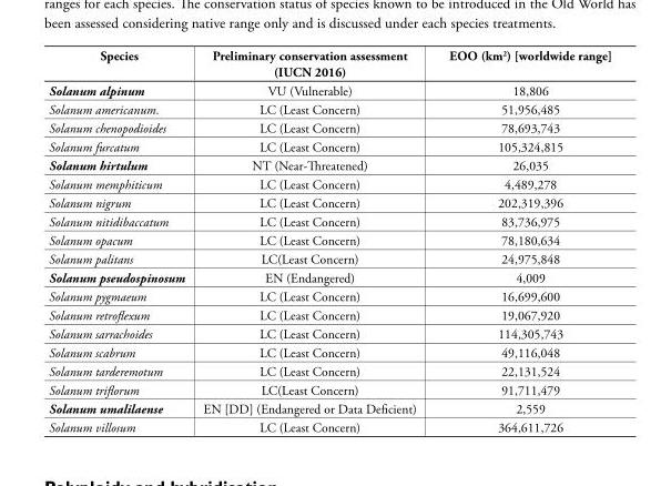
<table><tbody><tr><td>Species</td><td>Preliminary conservation assessment (IUCN 2016)</td><td>EOO (km<sup>2</sup>) [worldwide range]</td></tr><tr><td>Solanum alpinum</td><td>VU (Vulnerable)</td><td>18,806</td></tr><tr><td>Solanum americanum.</td><td>LC (Least Concern)</td><td>51,956,485</td></tr><tr><td>Solanum chenopodioides</td><td>LC (Least Concern)</td><td>78,693,743</td></tr><tr><td>Solanum furcatum</td><td>LC (Least Concern)</td><td>105,324,815</td></tr><tr><td>Solanum hirtulum</td><td>NT (Near-Threatened)</td><td>26,035</td></tr><tr><td>Solanum memphiticum</td><td>LC (Least Concern)</td><td>4,489,278</td></tr><tr><td>Solanum nigrum</td><td>LC (Least Concern)</td><td>202,319,396</td></tr><tr><td>Solanum nitidibaccatum</td><td>LC (Least Concern)</td><td>83,736,975</td></tr><tr><td>Solanum opacum</td><td>LC (Least Concern)</td><td>78,180,634</td></tr><tr><td>Solanum palitans</td><td>LC(Least Concern)</td><td>24,975,848</td></tr><tr><td>Solanum pseudospinosum</td><td>EN (Endangered)</td><td>4,009</td></tr><tr><td>Solanum pygmaeum</td><td>LC (Least Concern)</td><td>16,699,600</td></tr><tr><td>Solanum retroflexum</td><td>LC (Least Concern)</td><td>19,067,920</td></tr><tr><td>Solanum sarrachoides</td><td>LC (Least Concern)</td><td>114,305,743</td></tr><tr><td>Solanum scabrum</td><td>LC (Least Concern)</td><td>49,116,048</td></tr><tr><td>Solanum tarderemotum</td><td>LC (Least Concern)</td><td>22,131,524</td></tr><tr><td>Solanum triflorum</td><td>LC(Least Concern)</td><td>91,711,479</td></tr><tr><td>Solanum umalilaense</td><td>EN [DD] (Endangered or Data Deficient)</td><td>2,559</td></tr><tr><td>Solanum villosum</td><td>LC (Least Concern)</td><td>364,611,726</td></tr></tbody></table>